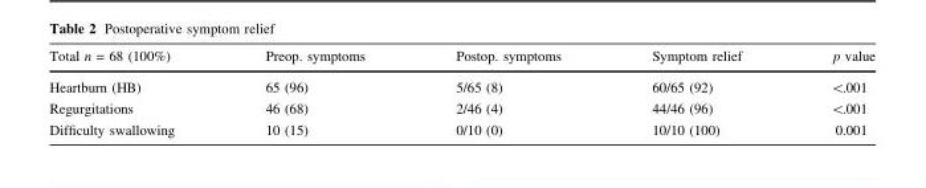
<table><thead><tr><td>Total n = 68 (100%)</td><td>Preop. symptoms</td><td>Postop. symptoms</td><td>Symptom relief</td><td>p value</td></tr></thead><tbody><tr><td>Heartburn (HB)</td><td>65 (96)</td><td>5/65 (8)</td><td>60/65 (92)</td><td>&lt;.001</td></tr><tr><td>Regurgitations</td><td>46 (68)</td><td>2/46 (4)</td><td>44/46 (96)</td><td>&lt;.001</td></tr><tr><td>Difficulty swallowing</td><td>10 (15)</td><td>0/10 (0)</td><td>10/10 (100)</td><td>0.001</td></tr></tbody></table>